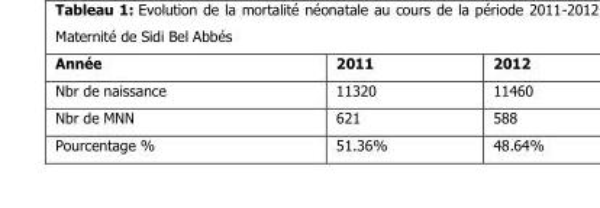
<table><thead><tr><td>Année</td><td>2011</td><td>2012</td></tr></thead><tbody><tr><td>Nbr de naissance</td><td>11320</td><td>11460</td></tr><tr><td>Nbr de MNN</td><td>621</td><td>588</td></tr><tr><td>Pourcentage %</td><td>51.36%</td><td>48.64%</td></tr></tbody></table>